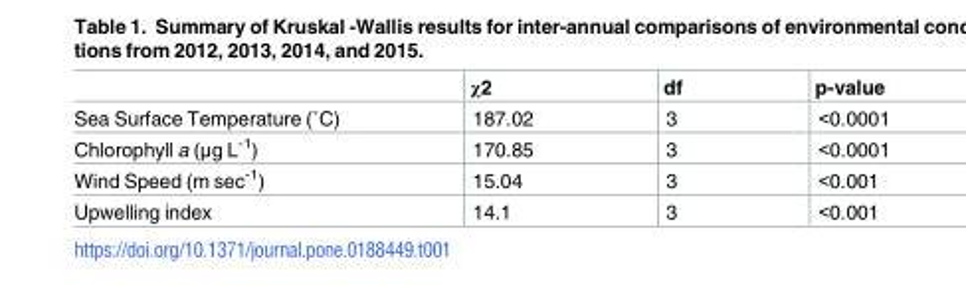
<table><thead><tr><td></td><td>χ2</td><td>df</td><td>p-value</td></tr></thead><tbody><tr><td>Sea Surface Temperature (˚C)</td><td>187.02</td><td>3</td><td>&lt;0.0001</td></tr><tr><td>Chlorophyll a (μg L<sup>-1</sup>)</td><td>170.85</td><td>3</td><td>&lt;0.0001</td></tr><tr><td>Wind Speed (m sec<sup>-1</sup>)</td><td>15.04</td><td>3</td><td>&lt;0.001</td></tr><tr><td>Upwelling index</td><td>14.1</td><td>3</td><td>&lt;0.001</td></tr></tbody></table>